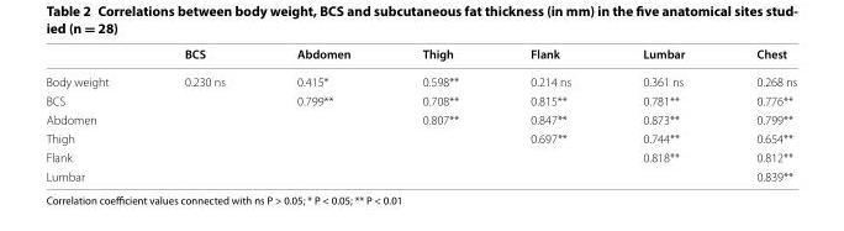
<table><thead><tr><td></td><td>BCS</td><td>Abdomen</td><td>Thigh</td><td>Flank</td><td>Lumbar</td><td>Chest</td></tr></thead><tbody><tr><td>Body weight</td><td>0.230 ns</td><td>0.415*</td><td>0.598**</td><td>0.214 ns</td><td>0.361 ns</td><td>0.268 ns</td></tr><tr><td>BCS</td><td></td><td>0.799**</td><td>0.708**</td><td>0.815**</td><td>0.781**</td><td>0.776**</td></tr><tr><td>Abdomen</td><td></td><td></td><td>0.807**</td><td>0.847**</td><td>0.873**</td><td>0.799**</td></tr><tr><td>Thigh</td><td></td><td></td><td></td><td>0.697**</td><td>0.744**</td><td>0.654**</td></tr><tr><td>Flank</td><td></td><td></td><td></td><td></td><td>0.818**</td><td>0.812**</td></tr><tr><td>Lumbar</td><td></td><td></td><td></td><td></td><td></td><td>0.839**</td></tr></tbody></table>